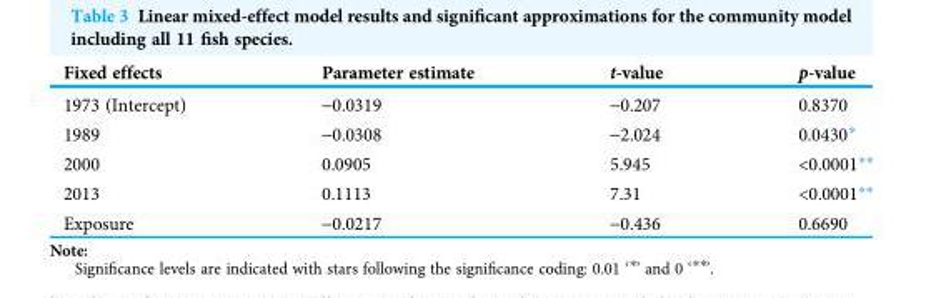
<table><thead><tr><td>Fixed effects</td><td>Parameter estimate</td><td>t-value</td><td>p-value</td></tr></thead><tbody><tr><td>1973 (Intercept)</td><td>-0.0319</td><td>-0.207</td><td>0.8370</td></tr><tr><td>1989</td><td>-0.0308</td><td>-2.024</td><td>0.0430*</td></tr><tr><td>2000</td><td>0.0905</td><td>5.945</td><td>&lt;0.0001**</td></tr><tr><td>2013</td><td>0.1113</td><td>7.31</td><td>&lt;0.0001**</td></tr><tr><td>Exposure</td><td>-0.0217</td><td>-0.436</td><td>0.6690</td></tr></tbody></table>